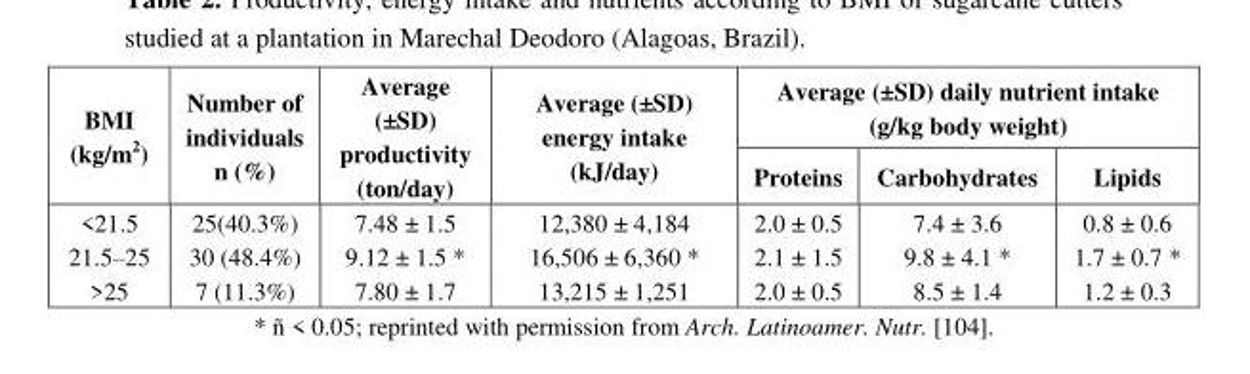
<table><thead><tr><td rowspan="2">BMI (kg/m<sup>2</sup>)</td><td rowspan="2">Number of individuals n (%)</td><td rowspan="2">Average (±SD) productivity (ton/day)</td><td rowspan="2">Average (±SD) energy intake (kJ/day)</td><td colspan="3">Average (±SD) daily nutrient intake (g/kg body weight)</td></tr><tr><td>Proteins</td><td>Carbohydrates</td><td>Lipids</td></tr></thead><tbody><tr><td>&lt;21.5</td><td>25(40.3%)</td><td>7.48 ± 1.5</td><td>12,380 ± 4,184</td><td>2.0 ± 0.5</td><td>7.4 ± 3.6</td><td>0.8 ± 0.6</td></tr><tr><td>21.5–25</td><td>30 (48.4%)</td><td>9.12 ± 1.5 *</td><td>16,506 ± 6,360 *</td><td>2.1 ± 1.5</td><td>9.8 ± 4.1 *</td><td>1.7 ± 0.7 *</td></tr><tr><td>&gt;25</td><td>7 (11.3%)</td><td>7.80 ± 1.7</td><td>13,215 ± 1,251</td><td>2.0 ± 0.5</td><td>8.5 ± 1.4</td><td>1.2 ± 0.3</td></tr></tbody></table>